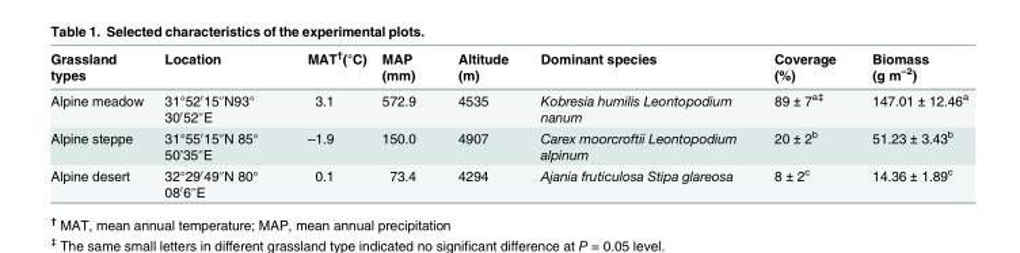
<table><thead><tr><td>Grassland types</td><td>Location</td><td>MAT<sup>†</sup>(°C)</td><td>MAP (mm)</td><td>Altitude (m)</td><td>Dominant species</td><td>Coverage (%)</td><td>Biomass (g m<sup>–2</sup>)</td></tr></thead><tbody><tr><td>Alpine meadow</td><td>31°52′15″N93° 30′52″E</td><td>3.1</td><td>572.9</td><td>4535</td><td>Kobresia humilis Leontopodium nanum</td><td>89 ± 7<sup>a‡</sup></td><td>147.01 ± 12.46<sup>a</sup></td></tr><tr><td>Alpine steppe</td><td>31°55′15″N 85° 50’35″E</td><td>–1.9</td><td>150.0</td><td>4907</td><td>Carex moorcroftii Leontopodium alpinum</td><td>20 ± 2<sup>b</sup></td><td>51.23 ± 3.43<sup>b</sup></td></tr><tr><td>Alpine desert</td><td>32°29′49″N 80° 08′6″E</td><td>0.1</td><td>73.4</td><td>4294</td><td>Ajania fruticulosa Stipa glareosa</td><td>8 ± 2<sup>c</sup></td><td>14.36 ± 1.89<sup>c</sup></td></tr></tbody></table>